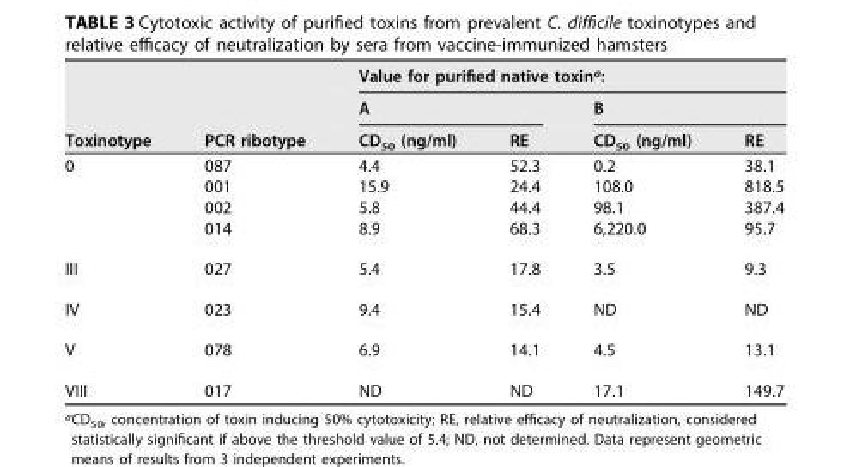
<table><thead><tr><td rowspan="3">Toxinotype</td><td rowspan="3">PCR ribotype</td><td colspan="4">Value for purified native toxin<sup>a</sup>:</td></tr><tr><td colspan="2">A</td><td colspan="2">B</td></tr><tr><td>CD<sub>50</sub> (ng/ml)</td><td>RE</td><td>CD<sub>50</sub> (ng/ml)</td><td>RE</td></tr></thead><tbody><tr><td rowspan="4">0</td><td>087</td><td>4.4</td><td>52.3</td><td>0.2</td><td>38.1</td></tr><tr><td>001</td><td>15.9</td><td>24.4</td><td>108.0</td><td>818.5</td></tr><tr><td>002</td><td>5.8</td><td>44.4</td><td>98.1</td><td>387.4</td></tr><tr><td>014</td><td>8.9</td><td>68.3</td><td>6,220.0</td><td>95.7</td></tr><tr><td>III</td><td>027</td><td>5.4</td><td>17.8</td><td>3.5</td><td>9.3</td></tr><tr><td>IV</td><td>023</td><td>9.4</td><td>15.4</td><td>ND</td><td>ND</td></tr><tr><td>V</td><td>078</td><td>6.9</td><td>14.1</td><td>4.5</td><td>13.1</td></tr><tr><td>VIII</td><td>017</td><td>ND</td><td>ND</td><td>17.1</td><td>149.7</td></tr></tbody></table>